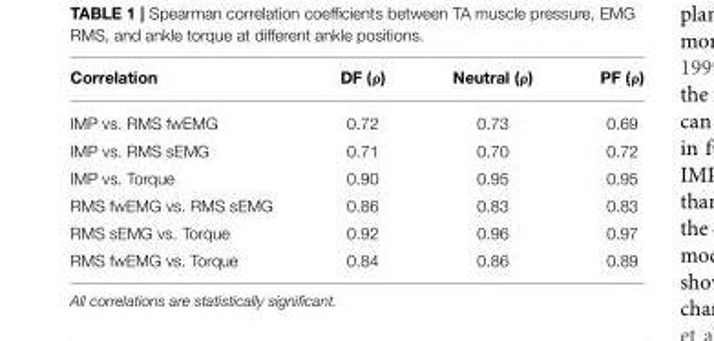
<table><thead><tr><td>Correlation</td><td>DF (ρ)</td><td>Neutral (ρ)</td><td>PF (ρ)</td></tr></thead><tbody><tr><td>IMP vs. RMS fwEMG</td><td>0.72</td><td>0.73</td><td>0.69</td></tr><tr><td>IMP vs. RMS sEMG</td><td>0.71</td><td>0.70</td><td>0.72</td></tr><tr><td>IMP vs. Torque</td><td>0.90</td><td>0.95</td><td>0.95</td></tr><tr><td>RMS fwEMG vs. RMS sEMG</td><td>0.86</td><td>0.83</td><td>0.83</td></tr><tr><td>RMS sEMG vs. Torque</td><td>0.92</td><td>0.96</td><td>0.97</td></tr><tr><td>RMS fwEMG vs. Torque</td><td>0.84</td><td>0.86</td><td>0.89</td></tr></tbody></table>